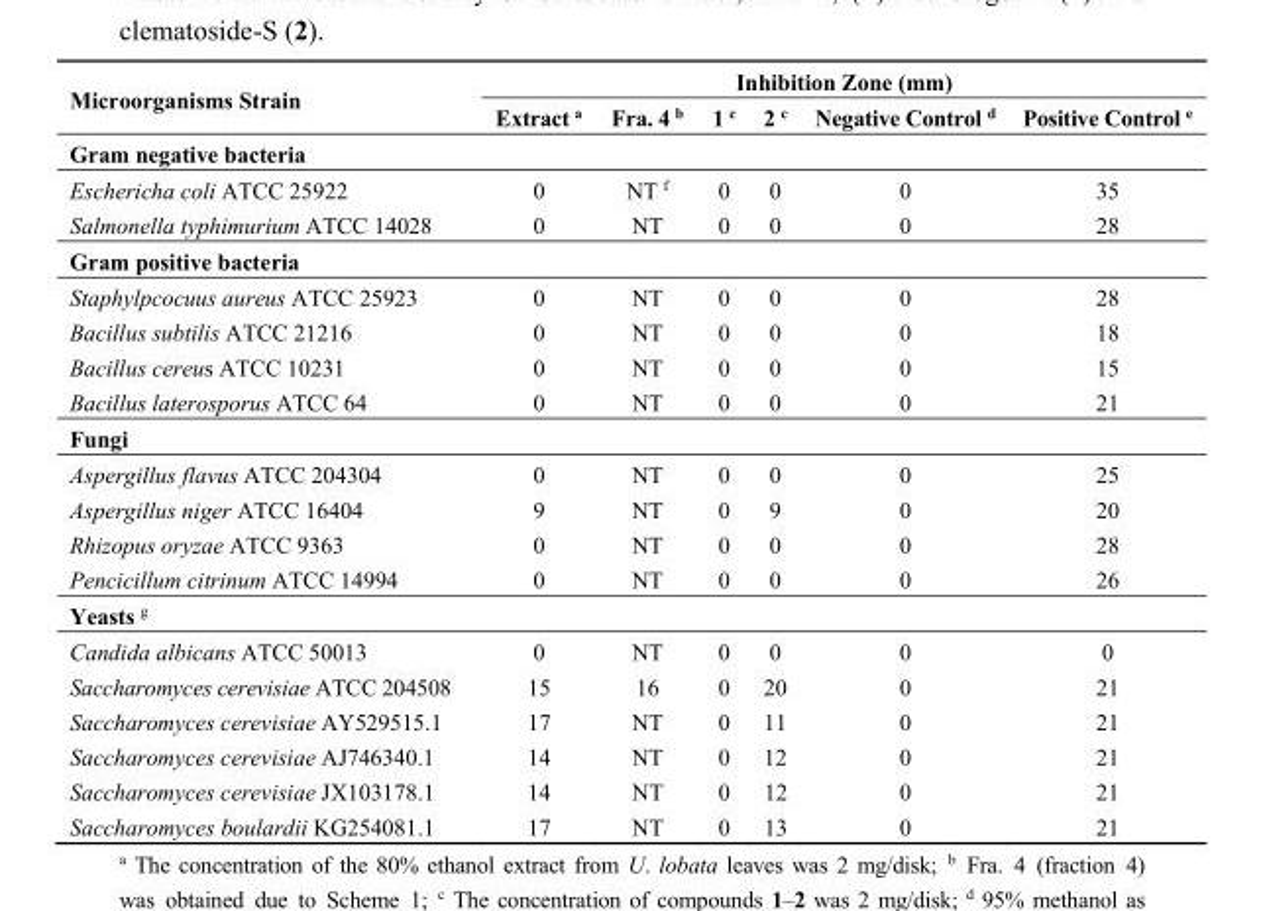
<table><thead><tr><td rowspan="2">Microorganisms Strain</td><td colspan="6">Inhibition Zone (mm)</td></tr><tr><td>Extract <sup>a</sup></td><td>Fra. 4 <sup>b</sup></td><td>1 <sup>c</sup></td><td>2 <sup>c</sup></td><td>Negative Control <sup>d</sup></td><td>Positive Control <sup>e</sup></td></tr></thead><tbody><tr><td colspan="7">Gram negative bacteria</td></tr><tr><td>Eschericha coli ATCC 25922</td><td>0</td><td>NT <sup>f</sup></td><td>0</td><td>0</td><td>0</td><td>35</td></tr><tr><td>Salmonella typhimurium ATCC 14028</td><td>0</td><td>NT</td><td>0</td><td>0</td><td>0</td><td>28</td></tr><tr><td colspan="7">Gram positive bacteria</td></tr><tr><td>Staphylpcocuus aureus ATCC 25923</td><td>0</td><td>NT</td><td>0</td><td>0</td><td>0</td><td>28</td></tr><tr><td>Bacillus subtilis ATCC 21216</td><td>0</td><td>NT</td><td>0</td><td>0</td><td>0</td><td>18</td></tr><tr><td>Bacillus cereus ATCC 10231</td><td>0</td><td>NT</td><td>0</td><td>0</td><td>0</td><td>15</td></tr><tr><td>Bacillus laterosporus ATCC 64</td><td>0</td><td>NT</td><td>0</td><td>0</td><td>0</td><td>21</td></tr><tr><td colspan="7">Fungi</td></tr><tr><td>Aspergillus flavus ATCC 204304</td><td>0</td><td>NT</td><td>0</td><td>0</td><td>0</td><td>25</td></tr><tr><td>Aspergillus niger ATCC 16404</td><td>9</td><td>NT</td><td>0</td><td>9</td><td>0</td><td>20</td></tr><tr><td>Rhizopus oryzae ATCC 9363</td><td>0</td><td>NT</td><td>0</td><td>0</td><td>0</td><td>28</td></tr><tr><td>Pencicillum citrinum ATCC 14994</td><td>0</td><td>NT</td><td>0</td><td>0</td><td>0</td><td>26</td></tr><tr><td colspan="7">Yeasts <sup>g</sup></td></tr><tr><td>Candida albicans ATCC 50013</td><td>0</td><td>NT</td><td>0</td><td>0</td><td>0</td><td>0</td></tr><tr><td>Saccharomyces cerevisiae ATCC 204508</td><td>15</td><td>16</td><td>0</td><td>20</td><td>0</td><td>21</td></tr><tr><td>Saccharomyces cerevisiae AY529515.1</td><td>17</td><td>NT</td><td>0</td><td>11</td><td>0</td><td>21</td></tr><tr><td>Saccharomyces cerevisiae AJ746340.1</td><td>14</td><td>NT</td><td>0</td><td>12</td><td>0</td><td>21</td></tr><tr><td>Saccharomyces cerevisiae JX103178.1</td><td>14</td><td>NT</td><td>0</td><td>12</td><td>0</td><td>21</td></tr><tr><td>Saccharomyces boulardii KG254081.1</td><td>17</td><td>NT</td><td>0</td><td>13</td><td>0</td><td>21</td></tr></tbody></table>